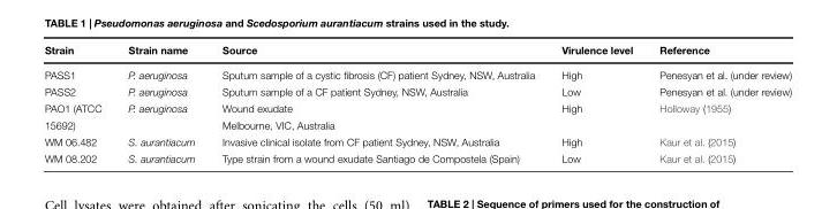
<table><thead><tr><td>Strain</td><td>Strain name</td><td>Source</td><td>Virulence level</td><td>Reference</td></tr></thead><tbody><tr><td>PASS1</td><td>P. aeruginosa</td><td>Sputum sample of a cystic fibrosis (CF) patient Sydney, NSW, Australia</td><td>High</td><td>Penesyan et al. (under review)</td></tr><tr><td>PASS2</td><td>P. aeruginosa</td><td>Sputum sample of a CF patient Sydney, NSW, Australia</td><td>Low</td><td>Penesyan et al. (under review)</td></tr><tr><td>PAO1 (ATCC 15692)</td><td>P. aeruginosa</td><td>Wound exudate Melbourne, VIC, Australia</td><td>High</td><td>Holloway (1955)</td></tr><tr><td>WM 06.482</td><td>S. aurantiacum</td><td>Invasive clinical isolate from CF patient Sydney, NSW, Australia</td><td>High</td><td>Kaur et al. (2015)</td></tr><tr><td>WM 08.202</td><td>S. aurantiacum</td><td>Type strain from a wound exudate Santiago de Compostela (Spain)</td><td>Low</td><td>Kaur et al. (2015)</td></tr></tbody></table>